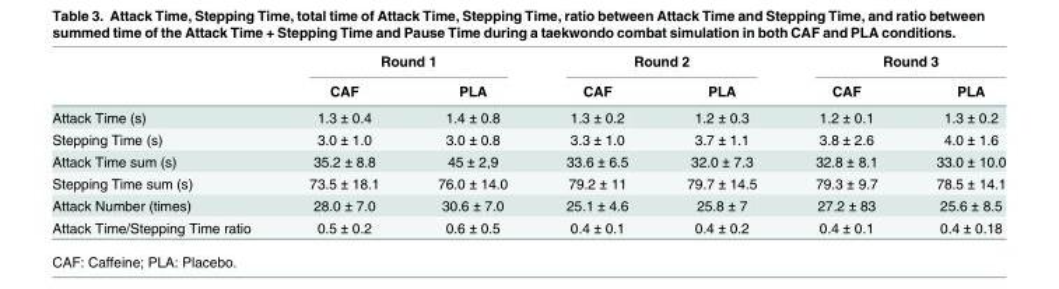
<table><thead><tr><td rowspan="2"></td><td colspan="2">Round 1</td><td colspan="2">Round 2</td><td colspan="2">Round 3</td></tr><tr><td>CAF</td><td>PLA</td><td>CAF</td><td>PLA</td><td>CAF</td><td>PLA</td></tr></thead><tbody><tr><td>Attack Time (s)</td><td>1.3 ± 0.4</td><td>1.4 ± 0.8</td><td>1.3 ± 0.2</td><td>1.2 ± 0.3</td><td>1.2 ± 0.1</td><td>1.3 ± 0.2</td></tr><tr><td>Stepping Time (s)</td><td>3.0 ± 1.0</td><td>3.0 ± 0.8</td><td>3.3 ± 1.0</td><td>3.7 ± 1.1</td><td>3.8 ± 2.6</td><td>4.0 ± 1.6</td></tr><tr><td>Attack Time sum (s)</td><td>35.2 ± 8.8</td><td>45 ± 2,9</td><td>33.6 ± 6.5</td><td>32.0 ± 7.3</td><td>32.8 ± 8.1</td><td>33.0 ± 10.0</td></tr><tr><td>Stepping Time sum (s)</td><td>73.5 ± 18.1</td><td>76.0 ± 14.0</td><td>79.2 ± 11</td><td>79.7 ± 14.5</td><td>79.3 ± 9.7</td><td>78.5 ± 14.1</td></tr><tr><td>Attack Number (times)</td><td>28.0 ± 7.0</td><td>30.6 ± 7.0</td><td>25.1 ± 4.6</td><td>25.8 ± 7</td><td>27.2 ± 83</td><td>25.6 ± 8.5</td></tr><tr><td>Attack Time/Stepping Time ratio</td><td>0.5 ± 0.2</td><td>0.6 ± 0.5</td><td>0.4 ± 0.1</td><td>0.4 ± 0.2</td><td>0.4 ± 0.1</td><td>0.4 ± 0.18</td></tr></tbody></table>